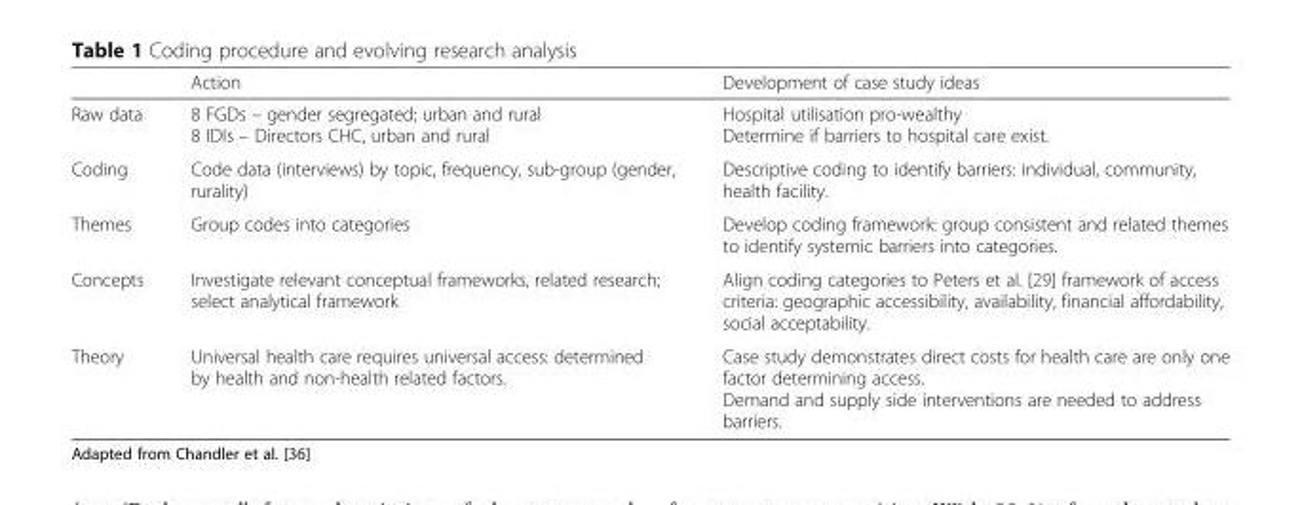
<table><thead><tr><td></td><td>Action</td><td>Development of case study ideas</td></tr></thead><tbody><tr><td>Raw data</td><td>8 FGDs – gender segregated; urban and rural 8 IDIs – Directors CHC, urban and rural</td><td>Hospital utilisation pro-wealthy Determine if barriers to hospital care exist.</td></tr><tr><td>Coding</td><td>Code data (interviews) by topic, frequency, sub-group (gender, rurality)</td><td>Descriptive coding to identify barriers: individual, community, health facility.</td></tr><tr><td>Themes</td><td>Group codes into categories</td><td>Develop coding framework: group consistent and related themes to identify systemic barriers into categories.</td></tr><tr><td>Concepts</td><td>Investigate relevant conceptual frameworks, related research; select analytical framework</td><td>Align coding categories to Peters et al. [29] framework of access criteria: geographic accessibility, availability, financial affordability, social acceptability.</td></tr><tr><td>Theory</td><td>Universal health care requires universal access: determined by health and non-health related factors.</td><td>Case study demonstrates direct costs for health care are only one factor determining access. Demand and supply side interventions are needed to address barriers.</td></tr></tbody></table>